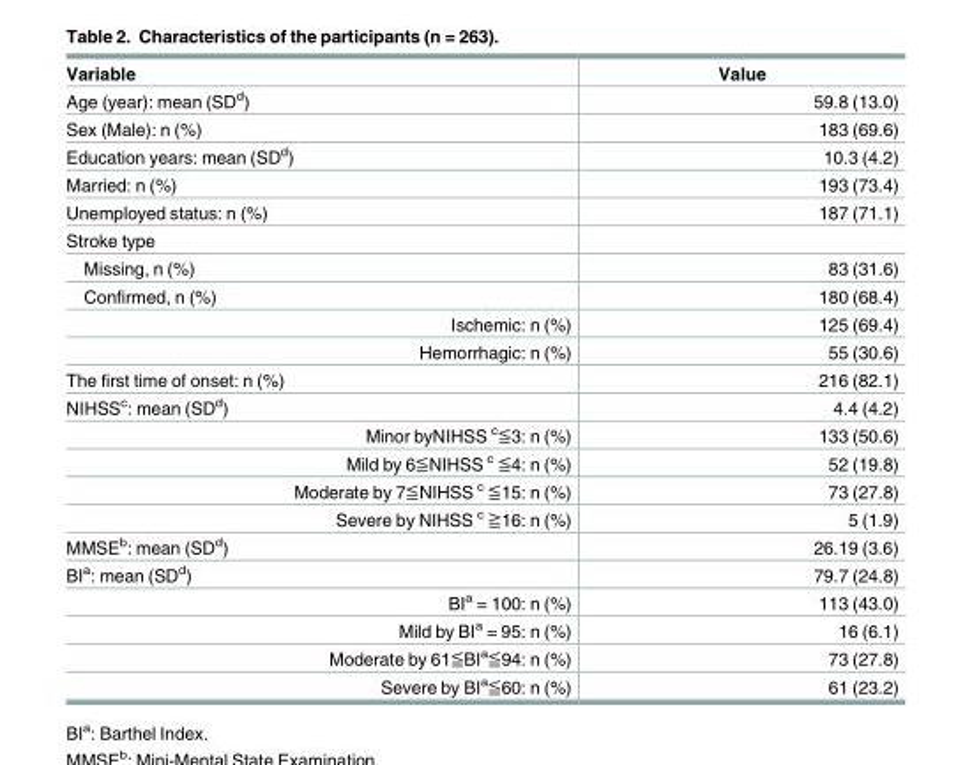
<table><thead><tr><td>Variable</td><td>Value</td></tr></thead><tbody><tr><td>Age (year): mean (SD<sup>d</sup>)</td><td>59.8 (13.0)</td></tr><tr><td>Sex (Male): n (%)</td><td>183 (69.6)</td></tr><tr><td>Education years: mean (SD<sup>d</sup>)</td><td>10.3 (4.2)</td></tr><tr><td>Married: n (%)</td><td>193 (73.4)</td></tr><tr><td>Unemployed status: n (%)</td><td>187 (71.1)</td></tr><tr><td colspan="2">Stroke type</td></tr><tr><td>Missing, n (%)</td><td>83 (31.6)</td></tr><tr><td>Confirmed, n (%)</td><td>180 (68.4)</td></tr><tr><td>Ischemic: n (%)</td><td>125 (69.4)</td></tr><tr><td>Hemorrhagic: n (%)</td><td>55 (30.6)</td></tr><tr><td>The first time of onset: n (%)</td><td>216 (82.1)</td></tr><tr><td>NIHSS<sup>c</sup>: mean (SD<sup>d</sup>)</td><td>4.4 (4.2)</td></tr><tr><td>Minor byNIHSS <sup>c</sup>≦3: n (%)</td><td>133 (50.6)</td></tr><tr><td>Mild by 6≦NIHSS <sup>c</sup> ≦4: n (%)</td><td>52 (19.8)</td></tr><tr><td>Moderate by 7≦NIHSS <sup>c</sup> ≦15: n (%)</td><td>73 (27.8)</td></tr><tr><td>Severe by NIHSS <sup>c</sup> ≧16: n (%)</td><td>5 (1.9)</td></tr><tr><td>MMSE<sup>b</sup>: mean (SD<sup>d</sup>)</td><td>26.19 (3.6)</td></tr><tr><td>BI<sup>a</sup>: mean (SD<sup>d</sup>)</td><td>79.7 (24.8)</td></tr><tr><td>BI<sup>a</sup> = 100: n (%)</td><td>113 (43.0)</td></tr><tr><td>Mild by BI<sup>a</sup> = 95: n (%)</td><td>16 (6.1)</td></tr><tr><td>Moderate by 61≦BI<sup>a</sup>≦94: n (%)</td><td>73 (27.8)</td></tr><tr><td>Severe by BI<sup>a</sup>≦60: n (%)</td><td>61 (23.2)</td></tr></tbody></table>